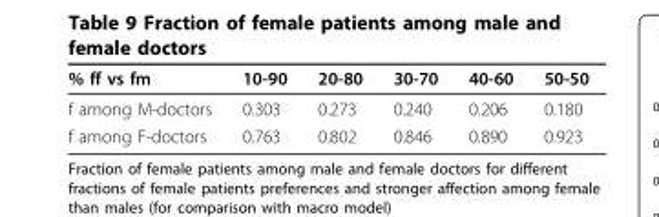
<table><thead><tr><td>% ff vs fm</td><td>10-90</td><td>20-80</td><td>30-70</td><td>40-60</td><td>50-50</td></tr></thead><tbody><tr><td>f among M-doctors</td><td>0.303</td><td>0.273</td><td>0.240</td><td>0.206</td><td>0.180</td></tr><tr><td>f among F-doctors</td><td>0.763</td><td>0.802</td><td>0.846</td><td>0.890</td><td>0.923</td></tr></tbody></table>